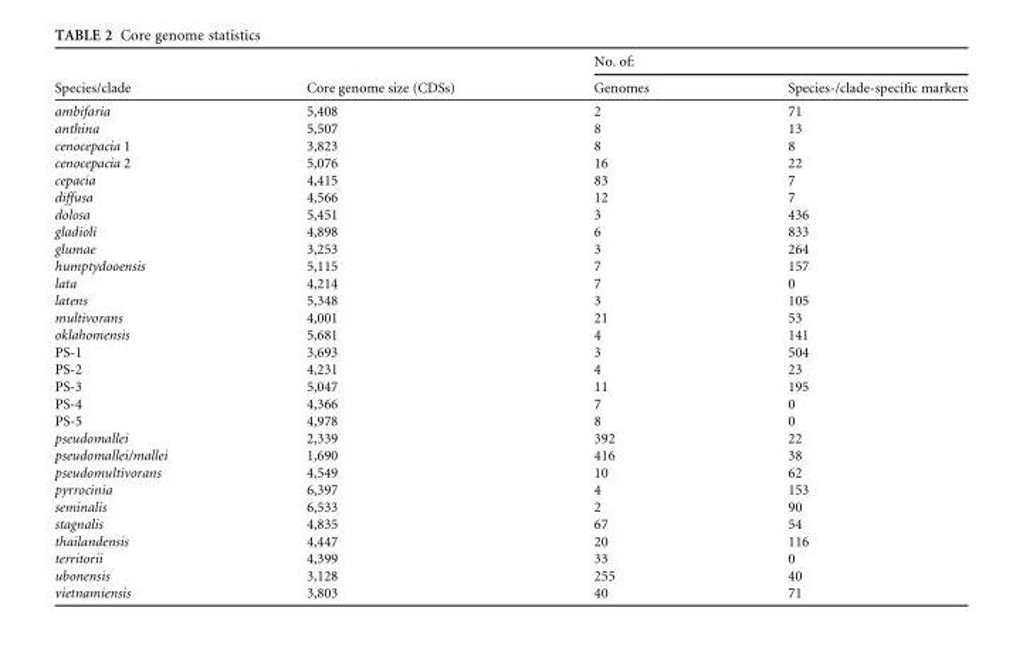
<table><thead><tr><td rowspan="2">Species/clade</td><td rowspan="2">Core genome size (CDSs)</td><td colspan="2">No. of:</td></tr><tr><td>Genomes</td><td>Species-/clade-specific markers</td></tr></thead><tbody><tr><td>ambifaria</td><td>5,408</td><td>2</td><td>71</td></tr><tr><td>anthina</td><td>5,507</td><td>8</td><td>13</td></tr><tr><td>cenocepacia 1</td><td>3,823</td><td>8</td><td>8</td></tr><tr><td>cenocepacia 2</td><td>5,076</td><td>16</td><td>22</td></tr><tr><td>cepacia</td><td>4,415</td><td>83</td><td>7</td></tr><tr><td>diffusa</td><td>4,566</td><td>12</td><td>7</td></tr><tr><td>dolosa</td><td>5,451</td><td>3</td><td>436</td></tr><tr><td>gladioli</td><td>4,898</td><td>6</td><td>833</td></tr><tr><td>glumae</td><td>3,253</td><td>3</td><td>264</td></tr><tr><td>humptydooensis</td><td>5,115</td><td>7</td><td>157</td></tr><tr><td>lata</td><td>4,214</td><td>7</td><td>0</td></tr><tr><td>latens</td><td>5,348</td><td>3</td><td>105</td></tr><tr><td>multivorans</td><td>4,001</td><td>21</td><td>53</td></tr><tr><td>oklahomensis</td><td>5,681</td><td>4</td><td>141</td></tr><tr><td>PS-1</td><td>3,693</td><td>3</td><td>504</td></tr><tr><td>PS-2</td><td>4,231</td><td>4</td><td>23</td></tr><tr><td>PS-3</td><td>5,047</td><td>11</td><td>195</td></tr><tr><td>PS-4</td><td>4,366</td><td>7</td><td>0</td></tr><tr><td>PS-5</td><td>4,978</td><td>8</td><td>0</td></tr><tr><td>pseudomallei</td><td>2,339</td><td>392</td><td>22</td></tr><tr><td>pseudomallei/mallei</td><td>1,690</td><td>416</td><td>38</td></tr><tr><td>pseudomultivorans</td><td>4,549</td><td>10</td><td>62</td></tr><tr><td>pyrrocinia</td><td>6,397</td><td>4</td><td>153</td></tr><tr><td>seminalis</td><td>6,533</td><td>2</td><td>90</td></tr><tr><td>stagnalis</td><td>4,835</td><td>67</td><td>54</td></tr><tr><td>thailandensis</td><td>4,447</td><td>20</td><td>116</td></tr><tr><td>territorii</td><td>4,399</td><td>33</td><td>0</td></tr><tr><td>ubonensis</td><td>3,128</td><td>255</td><td>40</td></tr><tr><td>vietnamiensis</td><td>3,803</td><td>40</td><td>71</td></tr></tbody></table>